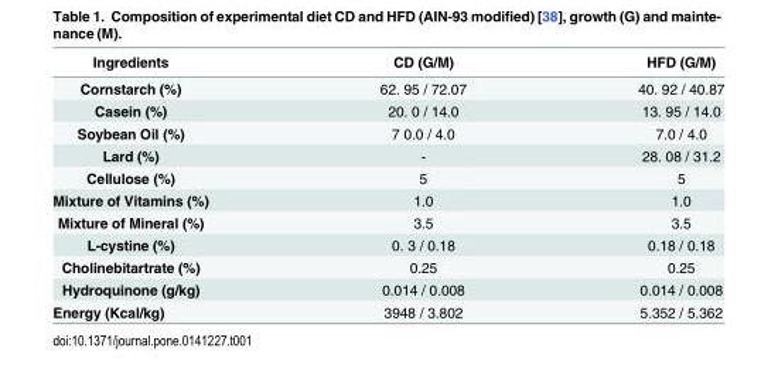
<table><thead><tr><td>Ingredients</td><td>CD (G/M)</td><td>HFD (G/M)</td></tr></thead><tbody><tr><td>Cornstarch (%)</td><td>62. 95 / 72.07</td><td>40. 92 / 40.87</td></tr><tr><td>Casein (%)</td><td>20. 0 / 14.0</td><td>13. 95 / 14.0</td></tr><tr><td>Soybean Oil (%)</td><td>7 0.0 / 4.0</td><td>7.0 / 4.0</td></tr><tr><td>Lard (%)</td><td>-</td><td>28. 08 / 31.2</td></tr><tr><td>Cellulose (%)</td><td>5</td><td>5</td></tr><tr><td>Mixture of Vitamins (%)</td><td>1.0</td><td>1.0</td></tr><tr><td>Mixture of Mineral (%)</td><td>3.5</td><td>3.5</td></tr><tr><td>L-cystine (%)</td><td>0. 3 / 0.18</td><td>0.18 / 0.18</td></tr><tr><td>Cholinebitartrate (%)</td><td>0.25</td><td>0.25</td></tr><tr><td>Hydroquinone (g/kg)</td><td>0.014 / 0.008</td><td>0.014 / 0.008</td></tr><tr><td>Energy (Kcal/kg)</td><td>3948 / 3.802</td><td>5.352 / 5.362</td></tr></tbody></table>